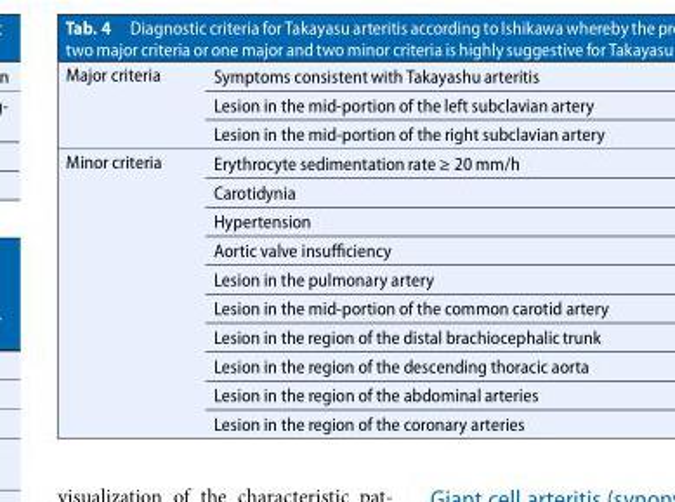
<table><tbody><tr><td rowspan="3">Major criteria</td><td>Symptoms consistent with Takayashu arteritis</td></tr><tr><td>Lesion in the mid-portion of the left subclavian artery</td></tr><tr><td>Lesion in the mid-portion of the right subclavian artery</td></tr><tr><td rowspan="10">Minor criteria</td><td>Erythrocyte sedimentation rate ≥ 20 mm/h</td></tr><tr><td>Carotidynia</td></tr><tr><td>Hypertension</td></tr><tr><td>Aortic valve insufficiency</td></tr><tr><td>Lesion in the pulmonary artery</td></tr><tr><td>Lesion in the mid-portion of the common carotid artery</td></tr><tr><td>Lesion in the region of the distal brachiocephalictrunk</td></tr><tr><td>Lesion in the region of the descending thoracic aorta</td></tr><tr><td>Lesion in the region of the abdominal arteries</td></tr><tr><td>Lesion in the region of the coronary arteries</td></tr></tbody></table>